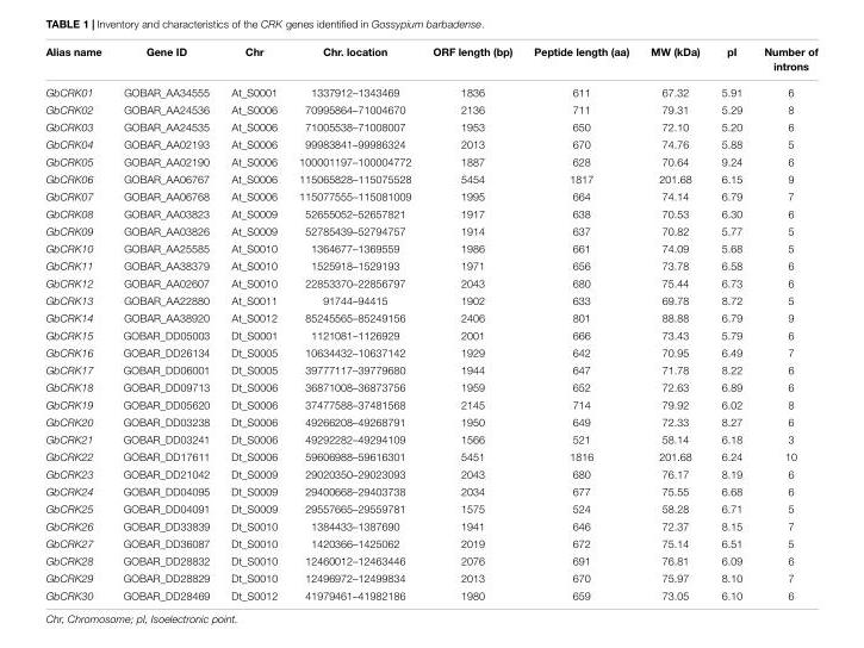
<table><thead><tr><td>Alias name</td><td>Gene ID</td><td>Chr</td><td>Chr. location</td><td>ORF length (bp)</td><td>Peptide length (aa)</td><td>MW (kDa)</td><td>pI</td><td>Number of introns</td></tr></thead><tbody><tr><td>GbCRK01</td><td>GOBAR_AA34555</td><td>At_S0001</td><td>1337912–1343469</td><td>1836</td><td>611</td><td>67.32</td><td>5.91</td><td>6</td></tr><tr><td>GbCRK02</td><td>GOBAR_AA24536</td><td>At_S0006</td><td>70995864–71004670</td><td>2136</td><td>711</td><td>79.31</td><td>5.29</td><td>8</td></tr><tr><td>GbCRK03</td><td>GOBAR_AA24535</td><td>At_S0006</td><td>71005538–71008007</td><td>1953</td><td>650</td><td>72.10</td><td>5.20</td><td>6</td></tr><tr><td>GbCRK04</td><td>GOBAR_AA02193</td><td>At_S0006</td><td>99983841–99986324</td><td>2013</td><td>670</td><td>74.76</td><td>5.88</td><td>5</td></tr><tr><td>GbCRK05</td><td>GOBAR_AA02190</td><td>At_S0006</td><td>100001197–100004772</td><td>1887</td><td>628</td><td>70.64</td><td>9.24</td><td>6</td></tr><tr><td>GbCRK06</td><td>GOBAR_AA06767</td><td>At_S0006</td><td>115065828–115075528</td><td>5454</td><td>1817</td><td>201.68</td><td>6.15</td><td>9</td></tr><tr><td>GbCRK07</td><td>GOBAR_AA06768</td><td>At_S0006</td><td>115077555–115081009</td><td>1995</td><td>664</td><td>74.14</td><td>6.79</td><td>7</td></tr><tr><td>GbCRK08</td><td>GOBAR_AA03823</td><td>At_S0009</td><td>52655052–52657821</td><td>1917</td><td>638</td><td>70.53</td><td>6.30</td><td>6</td></tr><tr><td>GbCRK09</td><td>GOBAR_AA03826</td><td>At_S0009</td><td>52785439–52794757</td><td>1914</td><td>637</td><td>70.82</td><td>5.77</td><td>5</td></tr><tr><td>GbCRK10</td><td>GOBAR_AA25585</td><td>At_S0010</td><td>1364677–1369559</td><td>1986</td><td>661</td><td>74.09</td><td>5.68</td><td>5</td></tr><tr><td>GbCRK11</td><td>GOBAR_AA38379</td><td>At_S0010</td><td>1525918–1529193</td><td>1971</td><td>656</td><td>73.78</td><td>6.58</td><td>6</td></tr><tr><td>GbCRK12</td><td>GOBAR_AA02607</td><td>At_S0010</td><td>22853370–22856797</td><td>2043</td><td>680</td><td>75.44</td><td>6.73</td><td>6</td></tr><tr><td>GbCRK13</td><td>GOBAR_AA22880</td><td>At_S0011</td><td>91744–94415</td><td>1902</td><td>633</td><td>69.78</td><td>8.72</td><td>5</td></tr><tr><td>GbCRK14</td><td>GOBAR_AA38920</td><td>At_S0012</td><td>85245565–85249156</td><td>2406</td><td>801</td><td>88.88</td><td>6.79</td><td>9</td></tr><tr><td>GbCRK15</td><td>GOBAR_DD05003</td><td>Dt_S0001</td><td>1121081–1126929</td><td>2001</td><td>666</td><td>73.43</td><td>5.79</td><td>6</td></tr><tr><td>GbCRK16</td><td>GOBAR_DD26134</td><td>Dt_S0005</td><td>10634432–10637142</td><td>1929</td><td>642</td><td>70.95</td><td>6.49</td><td>7</td></tr><tr><td>GbCRK17</td><td>GOBAR_DD06001</td><td>Dt_S0005</td><td>39777117–39779680</td><td>1944</td><td>647</td><td>71.78</td><td>8.22</td><td>6</td></tr><tr><td>GbCRK18</td><td>GOBAR_DD09713</td><td>Dt_S0006</td><td>36871008–36873756</td><td>1959</td><td>652</td><td>72.63</td><td>6.89</td><td>6</td></tr><tr><td>GbCRK19</td><td>GOBAR_DD05620</td><td>Dt_S0006</td><td>37477588–37481568</td><td>2145</td><td>714</td><td>79.92</td><td>6.02</td><td>8</td></tr><tr><td>GbCRK20</td><td>GOBAR_DD03238</td><td>Dt_S0006</td><td>49266208–49268791</td><td>1950</td><td>649</td><td>72.33</td><td>8.27</td><td>6</td></tr><tr><td>GbCRK21</td><td>GOBAR_DD03241</td><td>Dt_S0006</td><td>49292282–49294109</td><td>1566</td><td>521</td><td>58.14</td><td>6.18</td><td>3</td></tr><tr><td>GbCRK22</td><td>GOBAR_DD17611</td><td>Dt_S0006</td><td>59606988–59616301</td><td>5451</td><td>1816</td><td>201.68</td><td>6.24</td><td>10</td></tr><tr><td>GbCRK23</td><td>GOBAR_DD21042</td><td>Dt_S0009</td><td>29020350–29023093</td><td>2043</td><td>680</td><td>76.17</td><td>8.19</td><td>6</td></tr><tr><td>GbCRK24</td><td>GOBAR_DD04095</td><td>Dt_S0009</td><td>29400668–29403738</td><td>2034</td><td>677</td><td>75.55</td><td>6.68</td><td>6</td></tr><tr><td>GbCRK25</td><td>GOBAR_DD04091</td><td>Dt_S0009</td><td>29557665–29559781</td><td>1575</td><td>524</td><td>58.28</td><td>6.71</td><td>5</td></tr><tr><td>GbCRK26</td><td>GOBAR_DD33839</td><td>Dt_S0010</td><td>1384433–1387690</td><td>1941</td><td>646</td><td>72.37</td><td>8.15</td><td>7</td></tr><tr><td>GbCRK27</td><td>GOBAR_DD36087</td><td>Dt_S0010</td><td>1420366–1425062</td><td>2019</td><td>672</td><td>75.14</td><td>6.51</td><td>5</td></tr><tr><td>GbCRK28</td><td>GOBAR_DD28832</td><td>Dt_S0010</td><td>12460012–12463446</td><td>2076</td><td>691</td><td>76.81</td><td>6.09</td><td>6</td></tr><tr><td>GbCRK29</td><td>GOBAR_DD28829</td><td>Dt_S0010</td><td>12496972–12499834</td><td>2013</td><td>670</td><td>75.97</td><td>8.10</td><td>7</td></tr><tr><td>GbCRK30</td><td>GOBAR_DD28469</td><td>Dt_S0012</td><td>41979461–41982186</td><td>1980</td><td>659</td><td>73.05</td><td>6.10</td><td>6</td></tr></tbody></table>